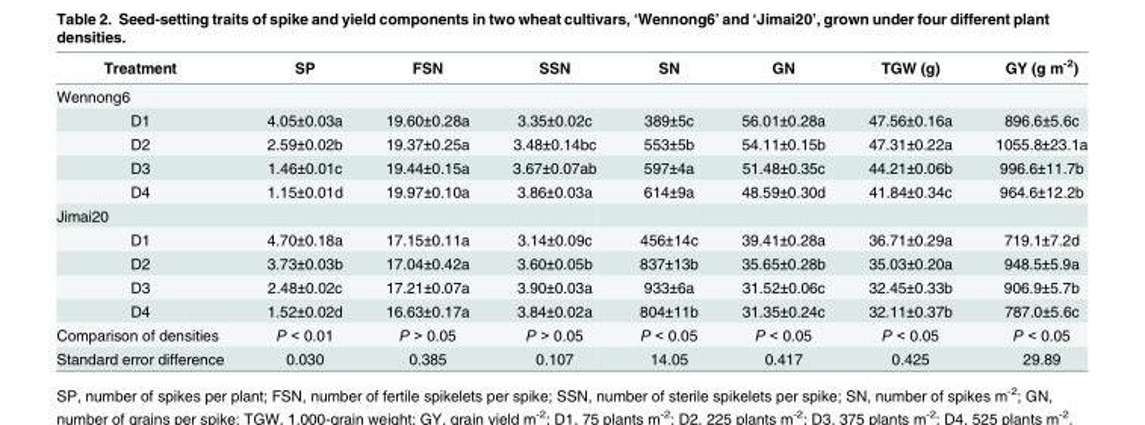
<table><thead><tr><td>Treatment</td><td>SP</td><td>FSN</td><td>SSN</td><td>SN</td><td>GN</td><td>TGW (g)</td><td>GY (g m<sup>-2</sup>)</td></tr></thead><tbody><tr><td colspan="8">Wennong6</td></tr><tr><td>D1</td><td>4.05±0.03a</td><td>19.60±0.28a</td><td>3.35±0.02c</td><td>389±5c</td><td>56.01±0.28a</td><td>47.56±0.16a</td><td>896.6±5.6c</td></tr><tr><td>D2</td><td>2.59±0.02b</td><td>19.37±0.25a</td><td>3.48±0.14bc</td><td>553±5b</td><td>54.11±0.15b</td><td>47.31±0.22a</td><td>1055.8±23.1a</td></tr><tr><td>D3</td><td>1.46±0.01c</td><td>19.44±0.15a</td><td>3.67±0.07ab</td><td>597±4a</td><td>51.48±0.35c</td><td>44.21±0.06b</td><td>996.6±11.7b</td></tr><tr><td>D4</td><td>1.15±0.01d</td><td>19.97±0.10a</td><td>3.86±0.03a</td><td>614±9a</td><td>48.59±0.30d</td><td>41.84±0.34c</td><td>964.6±12.2b</td></tr><tr><td colspan="8">Jimai20</td></tr><tr><td>D1</td><td>4.70±0.18a</td><td>17.15±0.11a</td><td>3.14±0.09c</td><td>456±14c</td><td>39.41±0.28a</td><td>36.71±0.29a</td><td>719.1±7.2d</td></tr><tr><td>D2</td><td>3.73±0.03b</td><td>17.04±0.42a</td><td>3.60±0.05b</td><td>837±13b</td><td>35.65±0.28b</td><td>35.03±0.20a</td><td>948.5±5.9a</td></tr><tr><td>D3</td><td>2.48±0.02c</td><td>17.21±0.07a</td><td>3.90±0.03a</td><td>933±6a</td><td>31.52±0.06c</td><td>32.45±0.33b</td><td>906.9±5.7b</td></tr><tr><td>D4</td><td>1.52±0.02d</td><td>16.63±0.17a</td><td>3.84±0.02a</td><td>804±11b</td><td>31.35±0.24c</td><td>32.11±0.37b</td><td>787.0±5.6c</td></tr><tr><td>Comparison of densities</td><td>P &lt; 0.01</td><td>P &gt; 0.05</td><td>P &gt; 0.05</td><td>P &lt; 0.05</td><td>P &lt; 0.05</td><td>P &lt; 0.05</td><td>P &lt; 0.05</td></tr><tr><td>Standard error difference</td><td>0.030</td><td>0.385</td><td>0.107</td><td>14.05</td><td>0.417</td><td>0.425</td><td>29.89</td></tr></tbody></table>